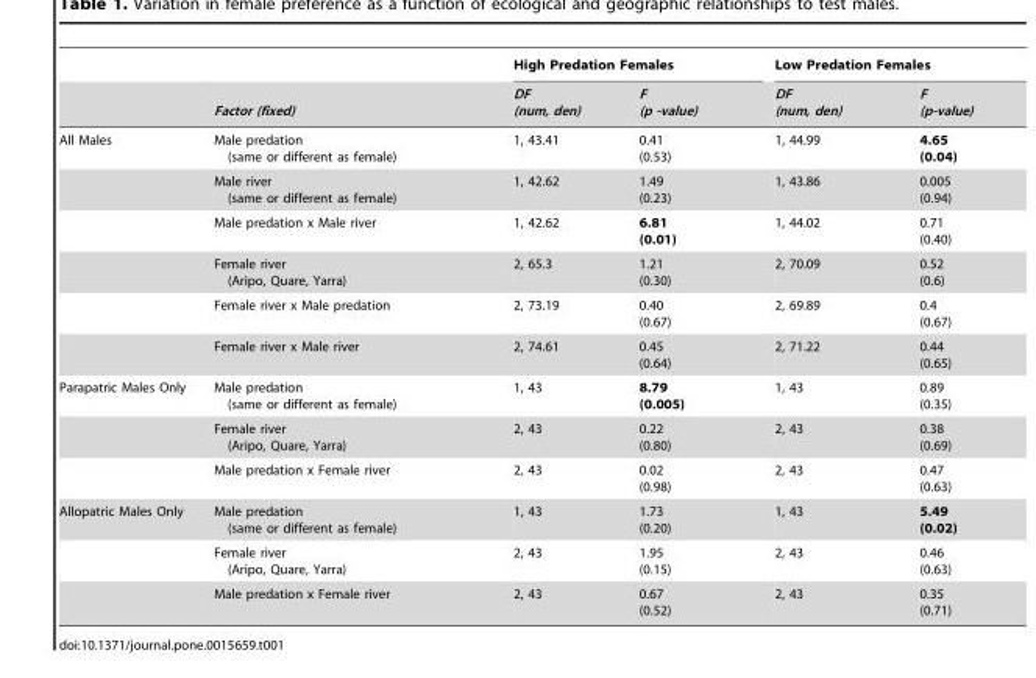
<table><thead><tr><td rowspan="2"></td><td rowspan="2">Factor (fixed)</td><td colspan="2">High Predation Females</td><td colspan="2">Low Predation Females</td></tr><tr><td>DF (num, den)</td><td>F (p -value)</td><td>DF (num, den)</td><td>F (p-value)</td></tr></thead><tbody><tr><td rowspan="6">All Males</td><td>Male predation (same or different as female)</td><td>1, 43.41</td><td>0.41 (0.53)</td><td>1, 44.99</td><td>4.65 (0.04)</td></tr><tr><td>Male river (same or different as female)</td><td>1, 42.62</td><td>1.49 (0.23)</td><td>1, 43.86</td><td>0.005 (0.94)</td></tr><tr><td>Male predation x Male river</td><td>1, 42.62</td><td>6.81 (0.01)</td><td>1, 44.02</td><td>0.71 (0.40)</td></tr><tr><td>Female river (Aripo, Quare, Yarra)</td><td>2, 65.3</td><td>1.21 (0.30)</td><td>2, 70.09</td><td>0.52 (0.6)</td></tr><tr><td>Female river x Male predation</td><td>2, 73.19</td><td>0.40 (0.67)</td><td>2, 69.89</td><td>0.4 (0.67)</td></tr><tr><td>Female river x Male river</td><td>2, 74.61</td><td>0.45 (0.64)</td><td>2, 71.22</td><td>0.44 (0.65)</td></tr><tr><td rowspan="3">Parapatric Males Only</td><td>Male predation (same or different as female)</td><td>1, 43</td><td>8.79 (0.005)</td><td>1, 43</td><td>0.89 (0.35)</td></tr><tr><td>Female river (Aripo, Quare, Yarra)</td><td>2, 43</td><td>0.22 (0.80)</td><td>2, 43</td><td>0.38 (0.69)</td></tr><tr><td>Male predation x Female river</td><td>2, 43</td><td>0.02 (0.98)</td><td>2, 43</td><td>0.47 (0.63)</td></tr><tr><td rowspan="3">Allopatric Males Only</td><td>Male predation (same or different as female)</td><td>1, 43</td><td>1.73 (0.20)</td><td>1, 43</td><td>5.49 (0.02)</td></tr><tr><td>Female river (Aripo, Quare, Yarra)</td><td>2, 43</td><td>1.95 (0.15)</td><td>2, 43</td><td>0.46 (0.63)</td></tr><tr><td>Male predation x Female river</td><td>2, 43</td><td>0.67 (0.52)</td><td>2, 43</td><td>0.35 (0.71)</td></tr></tbody></table>